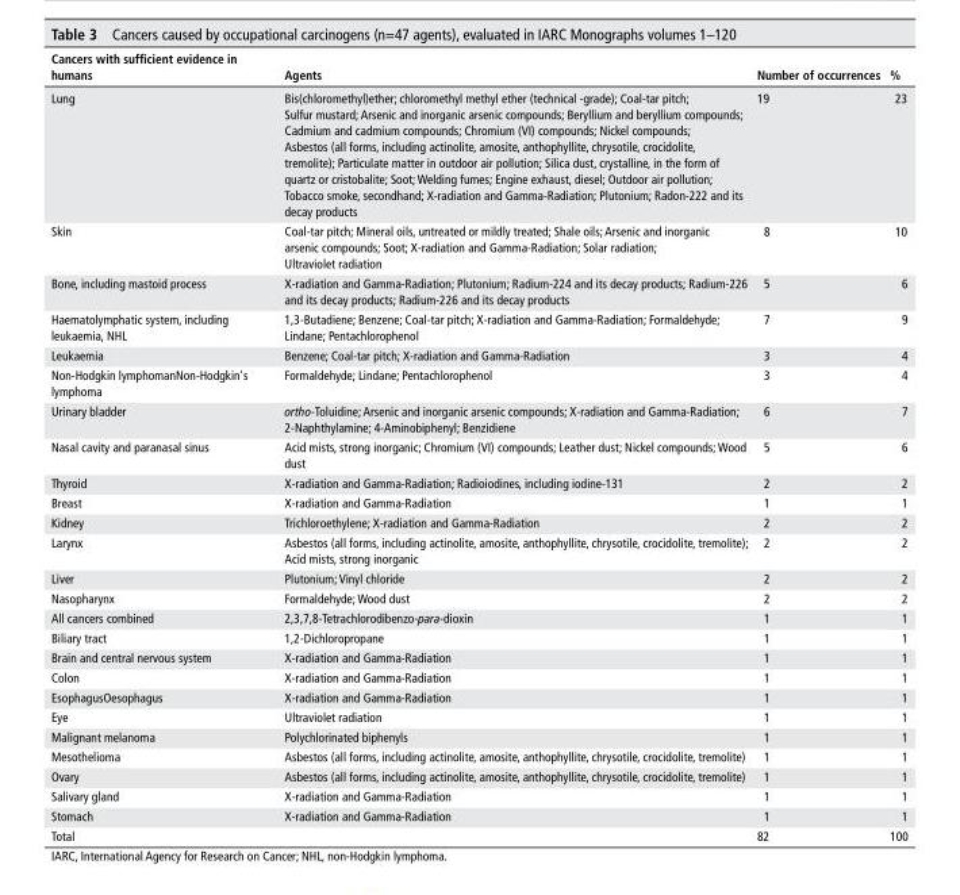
<table><thead><tr><td>Cancers with sufficient evidence in humans</td><td>Agents</td><td>number of occurrences</td><td>%</td></tr></thead><tbody><tr><td>Lung</td><td>Bis(chloromethyl)ether; chloromethyl methyl ether (technical -grade); Coal-tar pitch; Sulfur mustard; Arsenic and inorganic arsenic compounds; Beryllium and beryllium compounds; Cadmium and cadmium compounds; Chromium (VI) compounds; Nickel compounds; Asbestos (all forms, including actinolite, amosite, anthophyllite, chrysotile, crocidolite, tremolite); Particulate matter in outdoor air pollution; Silica dust, crystalline, in the form of quartz or cristobalite; Soot; Welding fumes; Engine exhaust, diesel; Outdoor air pollution; Tobacco smoke, secondhand; X-radiation and Gamma-Radiation; Plutonium; Radon-222 and its decay products</td><td>19</td><td>23</td></tr><tr><td>Skin</td><td>Coal-tar pitch; Mineral oils, untreated or mildly treated; Shale oils; Arsenic and inorganic arsenic compounds; Soot; X-radiation and Gamma-Radiation; Solar radiation; Ultraviolet radiation</td><td>8</td><td>10</td></tr><tr><td>Bone, including mastoid process</td><td>X-radiation and Gamma-Radiation; Plutonium; Radium-224 and its decay products; Radium-226 and its decay products; Radium-226 and its decay products</td><td>5</td><td>6</td></tr><tr><td>Haematolymphatic system, including leukaemia, NHL</td><td>1,3-Butadiene; Benzene; Coal-tar pitch; X-radiation and Gamma-Radiation; Formaldehyde; Lindane; Pentachlorophenol</td><td>7</td><td>9</td></tr><tr><td>Leukaemia</td><td>Benzene; Coal-tar pitch; X-radiation and Gamma-Radiation</td><td>3</td><td>4</td></tr><tr><td>Non-Hodgkin lymphomanNon-Hodgkin&#x27;s lymphoma</td><td>Formaldehyde; Lindane; Pentachlorophenol</td><td>3</td><td>4</td></tr><tr><td>Urinary bladder</td><td>ortho-Toluidine; Arsenic and inorganic arsenic compounds; X-radiation and Gamma-Radiation; 2-Naphthylamine; 4-Aminobiphenyl; Benzidiene</td><td>6</td><td>7</td></tr><tr><td>Nasal cavity and paranasal sinus</td><td>Acid mists, strong inorganic; Chromium (VI) compounds; Leather dust; Nickel compounds; Wood dust</td><td>5</td><td>6</td></tr><tr><td>Thyroid</td><td>X-radiation and Gamma-Radiation; Radioiodines, including iodine-131</td><td>2</td><td>2</td></tr><tr><td>Breast</td><td>X-radiation and Gamma-Radiation</td><td>1</td><td>1</td></tr><tr><td>Kidney</td><td>Trichloroethylene; X-radiation and Gamma-Radiation</td><td>2</td><td>2</td></tr><tr><td>Larynx</td><td>Asbestos (all forms, including actinolite, amosite, anthophyllite, chrysotile, crocidolite, tremolite); Acid mists, strong inorganic</td><td>2</td><td>2</td></tr><tr><td>Liver</td><td>Plutonium; Vinyl chloride</td><td>2</td><td>2</td></tr><tr><td>Nasopharynx</td><td>Formaldehyde; Wood dust</td><td>2</td><td>2</td></tr><tr><td>All cancers combined</td><td>2,3,7,8-Tetrachlorodibenzo-para-dioxin</td><td>1</td><td>1</td></tr><tr><td>Biliary tract</td><td>1,2-Dichloropropane</td><td>1</td><td>1</td></tr><tr><td>Brain and central nervous system</td><td>X-radiation and Gamma-Radiation</td><td>1</td><td>1</td></tr><tr><td>Colon</td><td>X-radiation and Gamma-Radiation</td><td>1</td><td>1</td></tr><tr><td>EsophagusOesophagus</td><td>X-radiation and Gamma-Radiation</td><td>1</td><td>1</td></tr><tr><td>Eye</td><td>Ultraviolet radiation</td><td>1</td><td>1</td></tr><tr><td>Malignant melanoma</td><td>Polychlorinated biphenyls</td><td>1</td><td>1</td></tr><tr><td>Mesothelioma</td><td>Asbestos (all forms, including actinolite, amosite, anthophyllite, chrysotile, crocidolite, tremolite)</td><td>1</td><td>1</td></tr><tr><td>Ovary</td><td>Asbestos (all forms, including actinolite, amosite, anthophyllite, chrysotile, crocidolite, tremolite)</td><td>1</td><td>1</td></tr><tr><td>Salivary gland</td><td>X-radiation and Gamma-Radiation</td><td>1</td><td>1</td></tr><tr><td>Stomach</td><td>X-radiation and Gamma-Radiation</td><td>1</td><td>1</td></tr><tr><td>Total</td><td></td><td>82</td><td>100</td></tr></tbody></table>